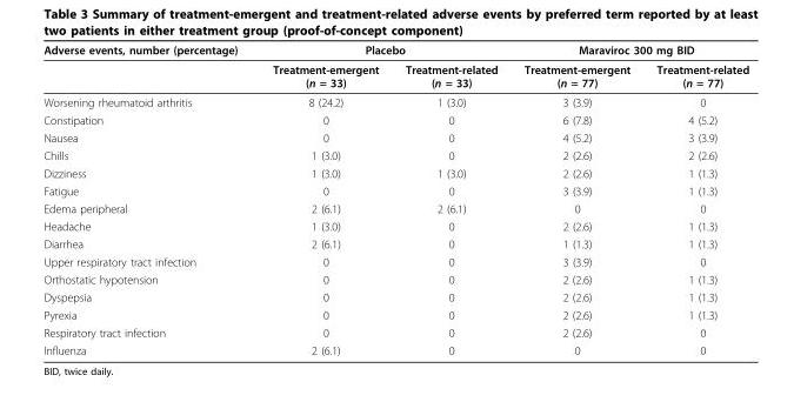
<table><thead><tr><td rowspan="2">Adverse events, number (percentage)</td><td colspan="2">Placebo</td><td colspan="2">Maraviroc 300 mg BID</td></tr><tr><td>Treatment-emergent (n = 33)</td><td>Treatment-related (n = 33)</td><td>Treatment-emergent (n = 77)</td><td>Treatment-related (n = 77)</td></tr></thead><tbody><tr><td>Worsening rheumatoid arthritis</td><td>8 (24.2)</td><td>1 (3.0)</td><td>3 (3.9)</td><td>0</td></tr><tr><td>Constipation</td><td>0</td><td>0</td><td>6 (7.8)</td><td>4 (5.2)</td></tr><tr><td>Nausea</td><td>0</td><td>0</td><td>4 (5.2)</td><td>3 (3.9)</td></tr><tr><td>Chills</td><td>1 (3.0)</td><td>0</td><td>2 (2.6)</td><td>2 (2.6)</td></tr><tr><td>Dizziness</td><td>1 (3.0)</td><td>1 (3.0)</td><td>2 (2.6)</td><td>1 (1.3)</td></tr><tr><td>Fatigue</td><td>0</td><td>0</td><td>3 (3.9)</td><td>1 (1.3)</td></tr><tr><td>Edema peripheral</td><td>2 (6.1)</td><td>2 (6.1)</td><td>0</td><td>0</td></tr><tr><td>Headache</td><td>1 (3.0)</td><td>0</td><td>2 (2.6)</td><td>1 (1.3)</td></tr><tr><td>Diarrhea</td><td>2 (6.1)</td><td>0</td><td>1 (1.3)</td><td>1 (1.3)</td></tr><tr><td>Upper respiratory tract infection</td><td>0</td><td>0</td><td>3 (3.9)</td><td>0</td></tr><tr><td>Orthostatic hypotension</td><td>0</td><td>0</td><td>2 (2.6)</td><td>1 (1.3)</td></tr><tr><td>Dyspepsia</td><td>0</td><td>0</td><td>2 (2.6)</td><td>1 (1.3)</td></tr><tr><td>Pyrexia</td><td>0</td><td>0</td><td>2 (2.6)</td><td>1 (1.3)</td></tr><tr><td>Respiratory tract infection</td><td>0</td><td>0</td><td>2 (2.6)</td><td>0</td></tr><tr><td>Influenza</td><td>2 (6.1)</td><td>0</td><td>0</td><td>0</td></tr></tbody></table>